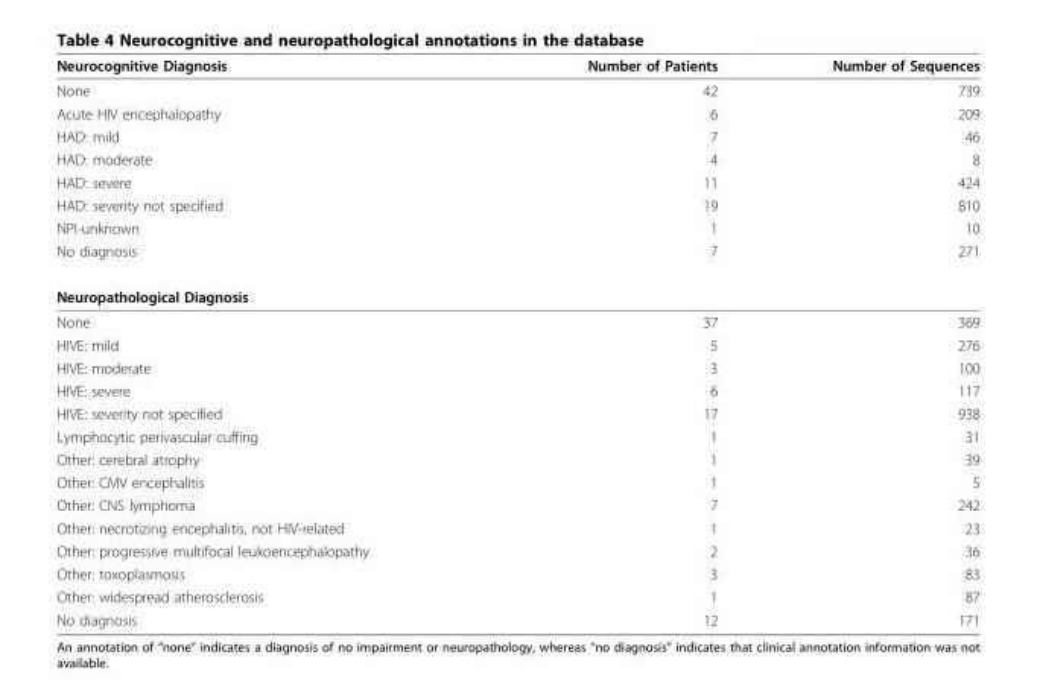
<table><thead><tr><td>Neurocognitive Diagnosis</td><td>Number of Patients</td><td>Number of Sequences</td></tr></thead><tbody><tr><td>None</td><td>42</td><td>739</td></tr><tr><td>Acute HIV encephalopathy</td><td>6</td><td>209</td></tr><tr><td>HAD: mild</td><td>7</td><td>46</td></tr><tr><td>HAD: moderate</td><td>4</td><td>8</td></tr><tr><td>HAD: severe</td><td>11</td><td>424</td></tr><tr><td>HAD: severity not specified</td><td>19</td><td>810</td></tr><tr><td>NPI-unknown</td><td>1</td><td>10</td></tr><tr><td>No diagnosis</td><td>7</td><td>271</td></tr><tr><td colspan="3">Neuropathological Diagnosis</td></tr><tr><td>None</td><td>37</td><td>369</td></tr><tr><td>HIVE: mild</td><td>5</td><td>276</td></tr><tr><td>HIVE: moderate</td><td>3</td><td>100</td></tr><tr><td>HIVE: severe</td><td>6</td><td>117</td></tr><tr><td>HIVE: severity not specified</td><td>17</td><td>938</td></tr><tr><td>Lymphocytic perivascular cuffing</td><td>1</td><td>31</td></tr><tr><td>Other: cerebral atrophy</td><td>1</td><td>39</td></tr><tr><td>Other: CMV encephalitis</td><td>1</td><td>5</td></tr><tr><td>Other: CNS lymphoma</td><td>7</td><td>242</td></tr><tr><td>Other: necrotizing encephalitis, not HIV-related</td><td>1</td><td>23</td></tr><tr><td>Other: progressive multifocal leukoencephalopathy</td><td>2</td><td>36</td></tr><tr><td>Other: toxoplasmosis</td><td>3</td><td>83</td></tr><tr><td>Other: widespread atherosclerosis</td><td>1</td><td>87</td></tr><tr><td>No diagnosis</td><td>12</td><td>171</td></tr></tbody></table>